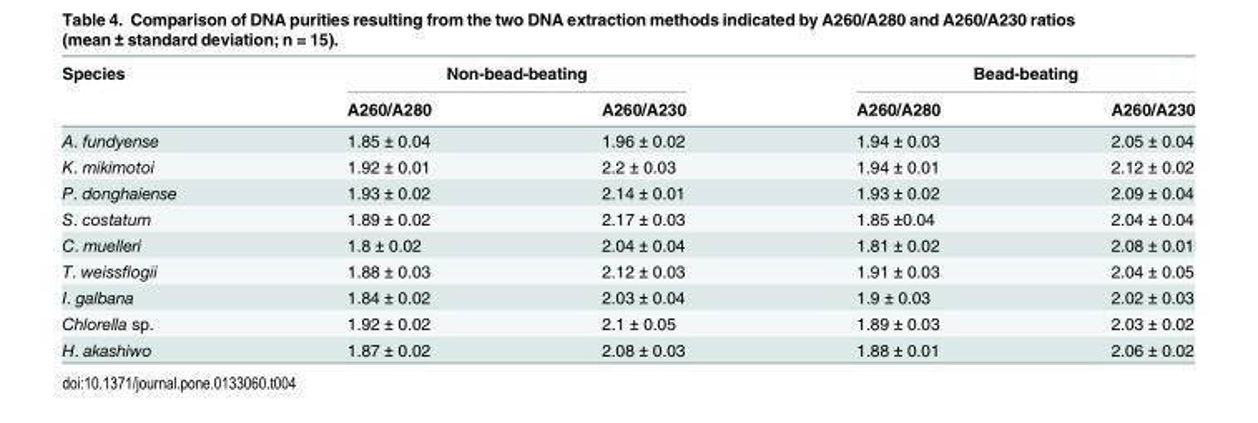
<table><thead><tr><td rowspan="2">Species</td><td colspan="2">Non-bead-beating</td><td colspan="2">Bead-beating</td></tr><tr><td>A260/A280</td><td>A260/A230</td><td>A260/A280</td><td>A260/A230</td></tr></thead><tbody><tr><td>A. fundyense</td><td>1.85 ± 0.04</td><td>1.96 ± 0.02</td><td>1.94 ± 0.03</td><td>2.05 ± 0.04</td></tr><tr><td>K. mikimotoi</td><td>1.92 ± 0.01</td><td>2.2 ± 0.03</td><td>1.94 ± 0.01</td><td>2.12 ± 0.02</td></tr><tr><td>P. donghaiense</td><td>1.93 ± 0.02</td><td>2.14 ± 0.01</td><td>1.93 ± 0.02</td><td>2.09 ± 0.04</td></tr><tr><td>S. costatum</td><td>1.89 ± 0.02</td><td>2.17 ± 0.03</td><td>1.85 ±0.04</td><td>2.04 ± 0.04</td></tr><tr><td>C. muelleri</td><td>1.8 ± 0.02</td><td>2.04 ± 0.04</td><td>1.81 ± 0.02</td><td>2.08 ± 0.01</td></tr><tr><td>T. weissflogii</td><td>1.88 ± 0.03</td><td>2.12 ± 0.03</td><td>1.91 ± 0.03</td><td>2.04 ± 0.05</td></tr><tr><td>I. galbana</td><td>1.84 ± 0.02</td><td>2.03 ± 0.04</td><td>1.9 ± 0.03</td><td>2.02 ± 0.03</td></tr><tr><td>Chlorella sp.</td><td>1.92 ± 0.02</td><td>2.1 ± 0.05</td><td>1.89 ± 0.03</td><td>2.03 ± 0.02</td></tr><tr><td>H. akashiwo</td><td>1.87 ± 0.02</td><td>2.08 ± 0.03</td><td>1.88 ± 0.01</td><td>2.06 ± 0.02</td></tr></tbody></table>